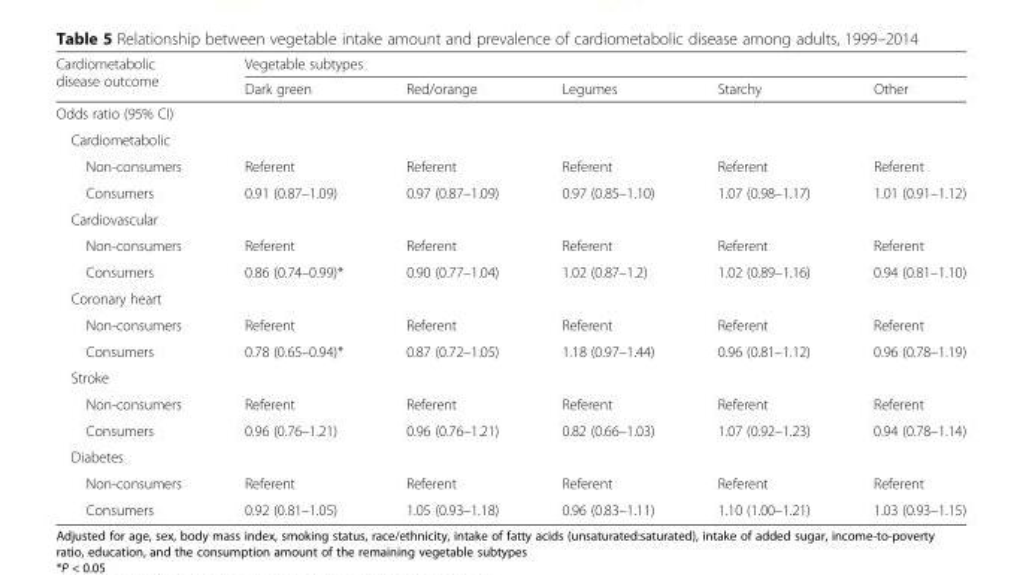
<table><thead><tr><td rowspan="2">Cardiometabolic disease outcome</td><td colspan="5">Vegetable subtypes</td></tr><tr><td>Dark green</td><td>Red/orange</td><td>Legumes</td><td>Starchy</td><td>Other</td></tr></thead><tbody><tr><td colspan="6">Odds ratio (95% CI)</td></tr><tr><td colspan="6">Cardiometabolic</td></tr><tr><td>Non-consumers</td><td>Referent</td><td>Referent</td><td>Referent</td><td>Referent</td><td>Referent</td></tr><tr><td>Consumers</td><td>0.91 (0.87–1.09)</td><td>0.97 (0.87–1.09)</td><td>0.97 (0.85–1.10)</td><td>1.07 (0.98–1.17)</td><td>1.01 (0.91–1.12)</td></tr><tr><td colspan="6">Cardiovascular</td></tr><tr><td>Non-consumers</td><td>Referent</td><td>Referent</td><td>Referent</td><td>Referent</td><td>Referent</td></tr><tr><td>Consumers</td><td>0.86 (0.74–0.99)*</td><td>0.90 (0.77–1.04)</td><td>1.02 (0.87–1.2)</td><td>1.02 (0.89–1.16)</td><td>0.94 (0.81–1.10)</td></tr><tr><td colspan="6">Coronary heart</td></tr><tr><td>Non-consumers</td><td>Referent</td><td>Referent</td><td>Referent</td><td>Referent</td><td>Referent</td></tr><tr><td>Consumers</td><td>0.78 (0.65–0.94)*</td><td>0.87 (0.72–1.05)</td><td>1.18 (0.97–1.44)</td><td>0.96 (0.81–1.12)</td><td>0.96 (0.78–1.19)</td></tr><tr><td colspan="6">Stroke</td></tr><tr><td>Non-consumers</td><td>Referent</td><td>Referent</td><td>Referent</td><td>Referent</td><td>Referent</td></tr><tr><td>Consumers</td><td>0.96 (0.76–1.21)</td><td>0.96 (0.76–1.21)</td><td>0.82 (0.66–1.03)</td><td>1.07 (0.92–1.23)</td><td>0.94 (0.78–1.14)</td></tr><tr><td colspan="6">Diabetes</td></tr><tr><td>Non-consumers</td><td>Referent</td><td>Referent</td><td>Referent</td><td>Referent</td><td>Referent</td></tr><tr><td>Consumers</td><td>0.92 (0.81–1.05)</td><td>1.05 (0.93–1.18)</td><td>0.96 (0.83–1.11)</td><td>1.10 (1.00–1.21)</td><td>1.03 (0.93–1.15)</td></tr></tbody></table>